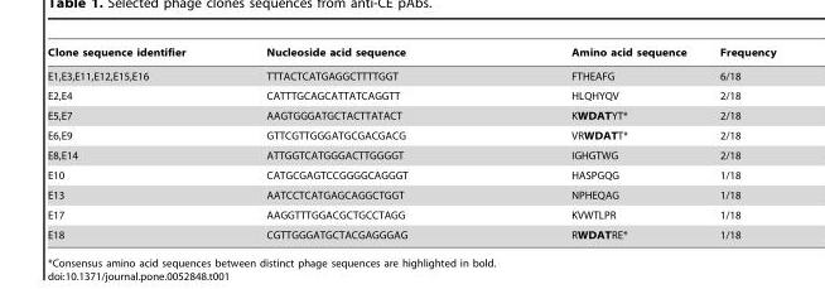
<table><thead><tr><td>Clone sequence identifier</td><td>Nucleoside acid sequence</td><td>Amino acid sequence</td><td>Frequency</td></tr></thead><tbody><tr><td>E1,E3,E11,E12,E15,E16</td><td>TTTACTCATGAGGCTTTTGGT</td><td>FTHEAFG</td><td>6/18</td></tr><tr><td>E2,E4</td><td>CATTTGCAGCATTATCAGGTT</td><td>HLQHYQV</td><td>2/18</td></tr><tr><td>E5,E7</td><td>AAGTGGGATGCTACTTATACT</td><td>KWDATYT*</td><td>2/18</td></tr><tr><td>E6,E9</td><td>GTTCGTTGGGATGCGACGACG</td><td>VRWDATT*</td><td>2/18</td></tr><tr><td>E8,E14</td><td>ATTGGTCATGGGACTTGGGGT</td><td>IGHGTWG</td><td>2/18</td></tr><tr><td>E10</td><td>CATGCGAGTCCGGGGCAGGGT</td><td>HASPGQG</td><td>1/18</td></tr><tr><td>E13</td><td>AATCCTCATGAGCAGGCTGGT</td><td>NPHEQAG</td><td>1/18</td></tr><tr><td>E17</td><td>AAGGTTTGGACGCTGCCTAGG</td><td>KVWTLPR</td><td>1/18</td></tr><tr><td>E18</td><td>CGTTGGGATGCTACGAGGGAG</td><td>RWDATRE*</td><td>1/18</td></tr></tbody></table>